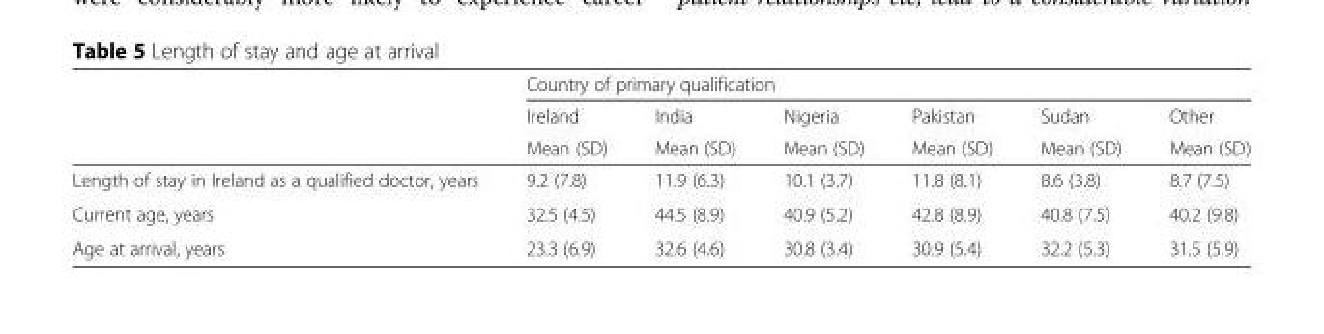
<table><thead><tr><td rowspan="3"></td><td colspan="6">Country of primary qualification</td></tr><tr><td rowspan="2">Ireland Mean (SD)</td><td rowspan="2">India Mean (SD)</td><td rowspan="2">Nigeria Mean (SD)</td><td rowspan="2">Pakistan Mean (SD)</td><td rowspan="2">Sudan Mean (SD)</td><td rowspan="2">Other Mean (SD)</td></tr><tr></tr></thead><tbody><tr><td>Length of stay in Ireland as a qualified doctor, years</td><td>9.2 (7.8)</td><td>11.9 (6.3)</td><td>10.1 (3.7)</td><td>11.8 (8.1)</td><td>8.6 (3.8)</td><td>8.7 (7.5)</td></tr><tr><td>Current age, years</td><td>32.5 (4.5)</td><td>44.5 (8.9)</td><td>40.9 (5.2)</td><td>42.8 (8.9)</td><td>40.8 (7.5)</td><td>40.2 (9.8)</td></tr><tr><td>Age at arrival, years</td><td>23.3 (6.9)</td><td>32.6 (4.6)</td><td>30.8 (3.4)</td><td>30.9 (5.4)</td><td>32.2 (5.3)</td><td>31.5 (5.9)</td></tr></tbody></table>